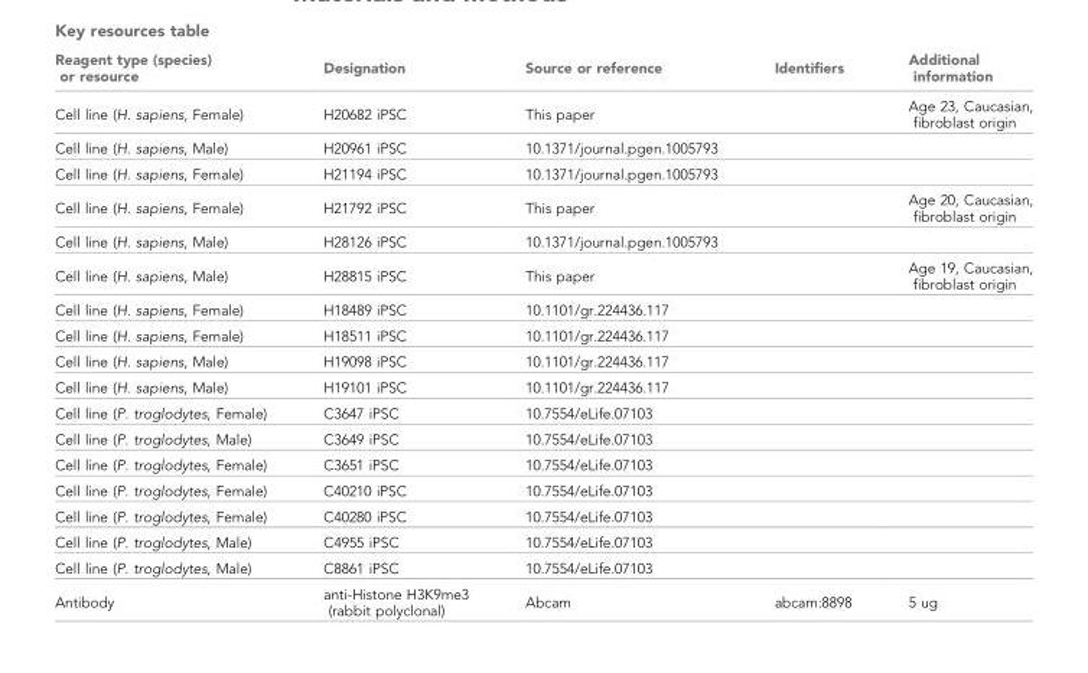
<table><thead><tr><td>Reagent type (species) or resource</td><td>Designation</td><td>Source or reference</td><td>Identifiers</td><td>Additional information</td></tr></thead><tbody><tr><td>Cell line (H. sapiens, Female)</td><td>H20682 iPSC</td><td>This paper</td><td></td><td>Age 23, Caucasian, fibroblast origin</td></tr><tr><td>Cell line (H. sapiens, Male)</td><td>H20961 iPSC</td><td>10.1371/journal.pgen.1005793</td><td></td><td></td></tr><tr><td>Cell line (H. sapiens, Female)</td><td>H21194 iPSC</td><td>10.1371/journal.pgen.1005793</td><td></td><td></td></tr><tr><td>Cell line (H. sapiens, Female)</td><td>H21792 iPSC</td><td>This paper</td><td></td><td>Age 20, Caucasian, fibroblast origin</td></tr><tr><td>Cell line (H. sapiens, Male)</td><td>H28126 iPSC</td><td>10.1371/journal.pgen.1005793</td><td></td><td></td></tr><tr><td>Cell line (H. sapiens, Male)</td><td>H28815 iPSC</td><td>This paper</td><td></td><td>Age 19, Caucasian, fibroblast origin</td></tr><tr><td>Cell line (H. sapiens, Female)</td><td>H18489 iPSC</td><td>10.1101/gr.224436.117</td><td></td><td></td></tr><tr><td>Cell line (H. sapiens, Female)</td><td>H18511 iPSC</td><td>10.1101/gr.224436.117</td><td></td><td></td></tr><tr><td>Cell line (H. sapiens, Male)</td><td>H19098 iPSC</td><td>10.1101/gr.224436.117</td><td></td><td></td></tr><tr><td>Cell line (H. sapiens, Male)</td><td>H19101 iPSC</td><td>10.1101/gr.224436.117</td><td></td><td></td></tr><tr><td>Cell line (P. troglodytes, Female)</td><td>C3647 iPSC</td><td>10.7554/eLife.07103</td><td></td><td></td></tr><tr><td>Cell line (P. troglodytes, Male)</td><td>C3649 iPSC</td><td>10.7554/eLife.07103</td><td></td><td></td></tr><tr><td>Cell line (P. troglodytes, Female)</td><td>C3651 iPSC</td><td>10.7554/eLife.07103</td><td></td><td></td></tr><tr><td>Cell line (P. troglodytes, Female)</td><td>C40210 iPSC</td><td>10.7554/eLife.07103</td><td></td><td></td></tr><tr><td>Cell line (P. troglodytes, Female)</td><td>C40280 iPSC</td><td>10.7554/eLife.07103</td><td></td><td></td></tr><tr><td>Cell line (P. troglodytes, Male)</td><td>C4955 iPSC</td><td>10.7554/eLife.07103</td><td></td><td></td></tr><tr><td>Cell line (P. troglodytes, Male)</td><td>C8861 iPSC</td><td>10.7554/eLife.07103</td><td></td><td></td></tr><tr><td>Antibody</td><td>anti-Histone H3K9me3 (rabbit polyclonal)</td><td>Abcam</td><td>abcam:8898</td><td>5 ug</td></tr></tbody></table>